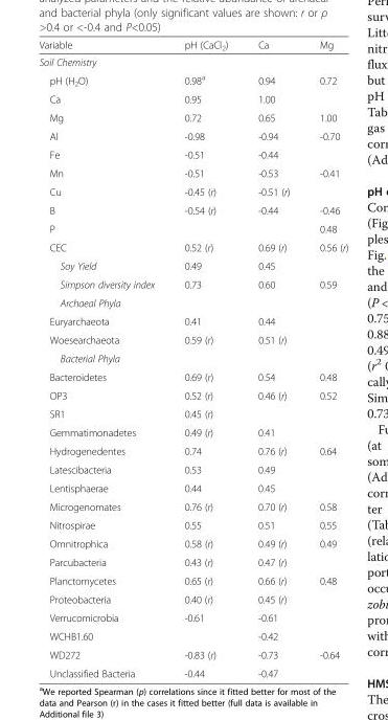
<table><thead><tr><td>Variable</td><td>pH (CaCl<sub>2</sub>)</td><td>Ca</td><td>Mg</td></tr></thead><tbody><tr><td colspan="4">Soil Chemistry</td></tr><tr><td>pH (H<sub>2</sub>O)</td><td>0.98<sup>a</sup></td><td>0.94</td><td>0.72</td></tr><tr><td>Ca</td><td>0.95</td><td>1.00</td><td></td></tr><tr><td>Mg</td><td>0.72</td><td>0.65</td><td>1.00</td></tr><tr><td>Al</td><td>-0.98</td><td>-0.94</td><td>-0.70</td></tr><tr><td>Fe</td><td>-0.51</td><td>-0.44</td><td></td></tr><tr><td>Mn</td><td>-0.51</td><td>-0.53</td><td>-0.41</td></tr><tr><td>Cu</td><td>-0.45 (r)</td><td>-0.51 (r)</td><td></td></tr><tr><td>B</td><td>-0.54 (r)</td><td>-0.44</td><td>-0.46</td></tr><tr><td>P</td><td></td><td></td><td>0.48</td></tr><tr><td>CEC</td><td>0.52 (r)</td><td>0.69 (r)</td><td>0.56 (r)</td></tr><tr><td>Soy Yield</td><td>0.49</td><td>0.45</td><td></td></tr><tr><td>Simpson diversity index</td><td>0.73</td><td>0.60</td><td>0.59</td></tr><tr><td colspan="4">Archaeal Phyla</td></tr><tr><td>Euryarchaeota</td><td>0.41</td><td>0.44</td><td></td></tr><tr><td>Woesearchaeota</td><td>0.59 (r)</td><td>0.51 (r)</td><td></td></tr><tr><td colspan="4">Bacterial Phyla</td></tr><tr><td>Bacteroidetes</td><td>0.69 (r)</td><td>0.54</td><td>0.48</td></tr><tr><td>OP3</td><td>0.52 (r)</td><td>0.46 (r)</td><td>0.52</td></tr><tr><td>SR1</td><td>0.45 (r)</td><td></td><td></td></tr><tr><td>Gemmatimonadetes</td><td>0.49 (r)</td><td>0.41</td><td></td></tr><tr><td>Hydrogenedentes</td><td>0.74</td><td>0.76 (r)</td><td>0.64</td></tr><tr><td>Latescibacteria</td><td>0.53</td><td>0.49</td><td></td></tr><tr><td>Lentisphaerae</td><td>0.44</td><td>0.45</td><td></td></tr><tr><td>Microgenomates</td><td>0.76 (r)</td><td>0.70 (r)</td><td>0.58</td></tr><tr><td>Nitrospirae</td><td>0.55</td><td>0.51</td><td>0.55</td></tr><tr><td>Omnitrophica</td><td>0.58 (r)</td><td>0.49 (r)</td><td>0.49</td></tr><tr><td>Parcubacteria</td><td>0.43 (r)</td><td>0.47 (r)</td><td></td></tr><tr><td>Planctomycetes</td><td>0.65 (r)</td><td>0.66 (r)</td><td>0.48</td></tr><tr><td>Proteobacteria</td><td>0.40 (r)</td><td>0.45 (r)</td><td></td></tr><tr><td>Verrucomicrobia</td><td>-0.61</td><td>-0.61</td><td></td></tr><tr><td>WCHB1.60</td><td></td><td>-0.42</td><td></td></tr><tr><td>WD272</td><td>-0.83 (r)</td><td>-0.73</td><td>-0.64</td></tr><tr><td>Unclassified Bacteria</td><td>-0.44</td><td>-0.47</td><td></td></tr></tbody></table>